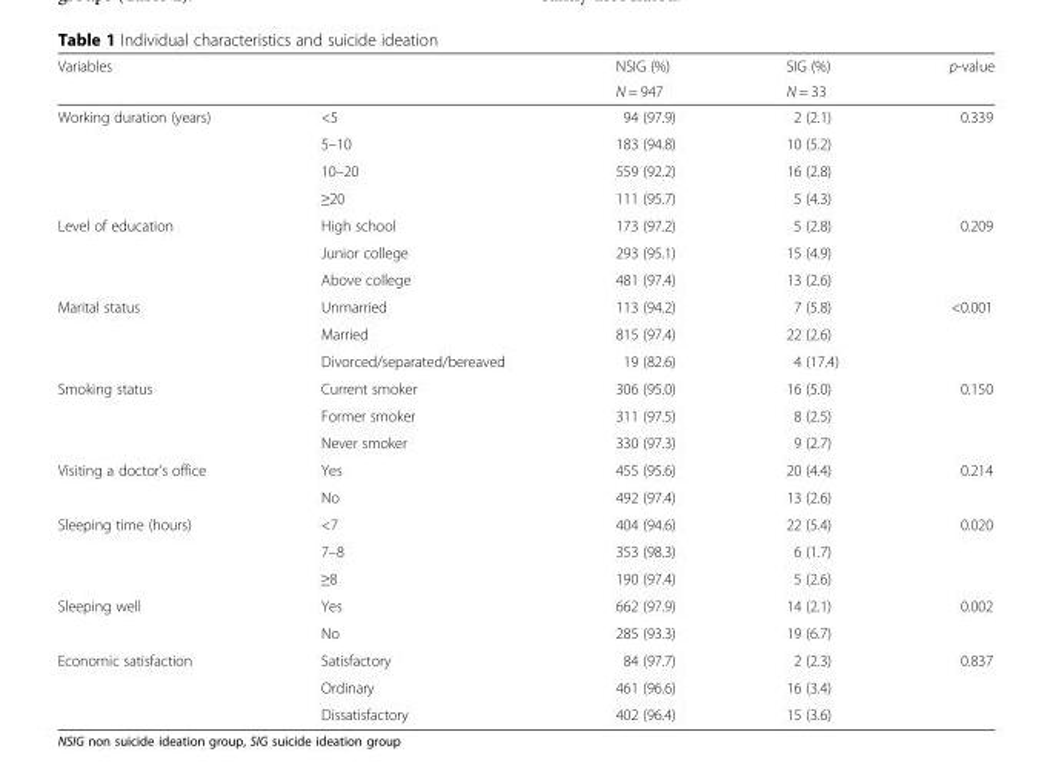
<table><thead><tr><td rowspan="2">Variables</td><td rowspan="2"></td><td rowspan="2">NSIG (%) N = 947</td><td rowspan="2">SIG (%) N = 33</td><td rowspan="2">p-value</td></tr><tr></tr></thead><tbody><tr><td rowspan="4">Working duration (years)</td><td>&lt;5</td><td>94 (97.9)</td><td>2 (2.1)</td><td>0.339</td></tr><tr><td>5–10</td><td>183 (94.8)</td><td>10 (5.2)</td><td></td></tr><tr><td>10–20</td><td>559 (92.2)</td><td>16 (2.8)</td><td></td></tr><tr><td>≥20</td><td>111 (95.7)</td><td>5 (4.3)</td><td></td></tr><tr><td rowspan="3">Level of education</td><td>High school</td><td>173 (97.2)</td><td>5 (2.8)</td><td>0.209</td></tr><tr><td>Junior college</td><td>293 (95.1)</td><td>15 (4.9)</td><td></td></tr><tr><td>Above college</td><td>481 (97.4)</td><td>13 (2.6)</td><td></td></tr><tr><td rowspan="3">Marital status</td><td>Unmarried</td><td>113 (94.2)</td><td>7 (5.8)</td><td>&lt;0.001</td></tr><tr><td>Married</td><td>815 (97.4)</td><td>22 (2.6)</td><td></td></tr><tr><td>Divorced/separated/bereaved</td><td>19 (82.6)</td><td>4 (17.4)</td><td></td></tr><tr><td rowspan="3">Smoking status</td><td>Current smoker</td><td>306 (95.0)</td><td>16 (5.0)</td><td>0.150</td></tr><tr><td>Former smoker</td><td>311 (97.5)</td><td>8 (2.5)</td><td></td></tr><tr><td>Never smoker</td><td>330 (97.3)</td><td>9 (2.7)</td><td></td></tr><tr><td rowspan="2">Visiting a doctor’s office</td><td>Yes</td><td>455 (95.6)</td><td>20 (4.4)</td><td>0.214</td></tr><tr><td>No</td><td>492 (97.4)</td><td>13 (2.6)</td><td></td></tr><tr><td rowspan="3">Sleeping time (hours)</td><td>&lt;7</td><td>404 (94.6)</td><td>22 (5.4)</td><td>0.020</td></tr><tr><td>7–8</td><td>353 (98.3)</td><td>6 (1.7)</td><td></td></tr><tr><td>≥8</td><td>190 (97.4)</td><td>5 (2.6)</td><td></td></tr><tr><td rowspan="2">Sleeping well</td><td>Yes</td><td>662 (97.9)</td><td>14 (2.1)</td><td>0.002</td></tr><tr><td>No</td><td>285 (93.3)</td><td>19 (6.7)</td><td></td></tr><tr><td rowspan="3">Economic satisfaction</td><td>Satisfactory</td><td>84 (97.7)</td><td>2 (2.3)</td><td>0.837</td></tr><tr><td>Ordinary</td><td>461 (96.6)</td><td>16 (3.4)</td><td></td></tr><tr><td>Dissatisfactory</td><td>402 (96.4)</td><td>15 (3.6)</td><td></td></tr></tbody></table>